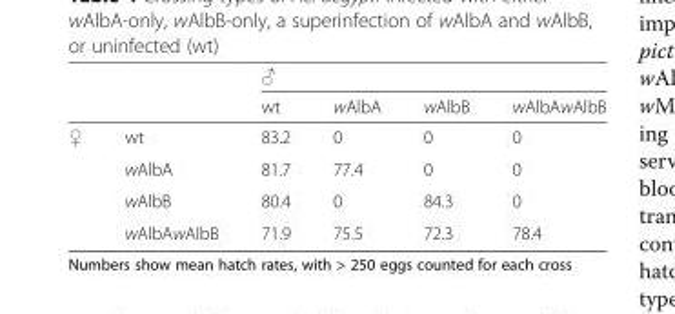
<table><thead><tr><td rowspan="2"></td><td rowspan="2"></td><td colspan="4">♂</td></tr><tr><td>wt</td><td>wAlbA</td><td>wAlbB</td><td>wAlbAwAlbB</td></tr></thead><tbody><tr><td rowspan="4">♀</td><td>wt</td><td>83.2</td><td>0</td><td>0</td><td>0</td></tr><tr><td>wAlbA</td><td>81.7</td><td>77.4</td><td>0</td><td>0</td></tr><tr><td>wAlbB</td><td>80.4</td><td>0</td><td>84.3</td><td>0</td></tr><tr><td>wAlbAwAlbB</td><td>71.9</td><td>75.5</td><td>72.3</td><td>78.4</td></tr></tbody></table>